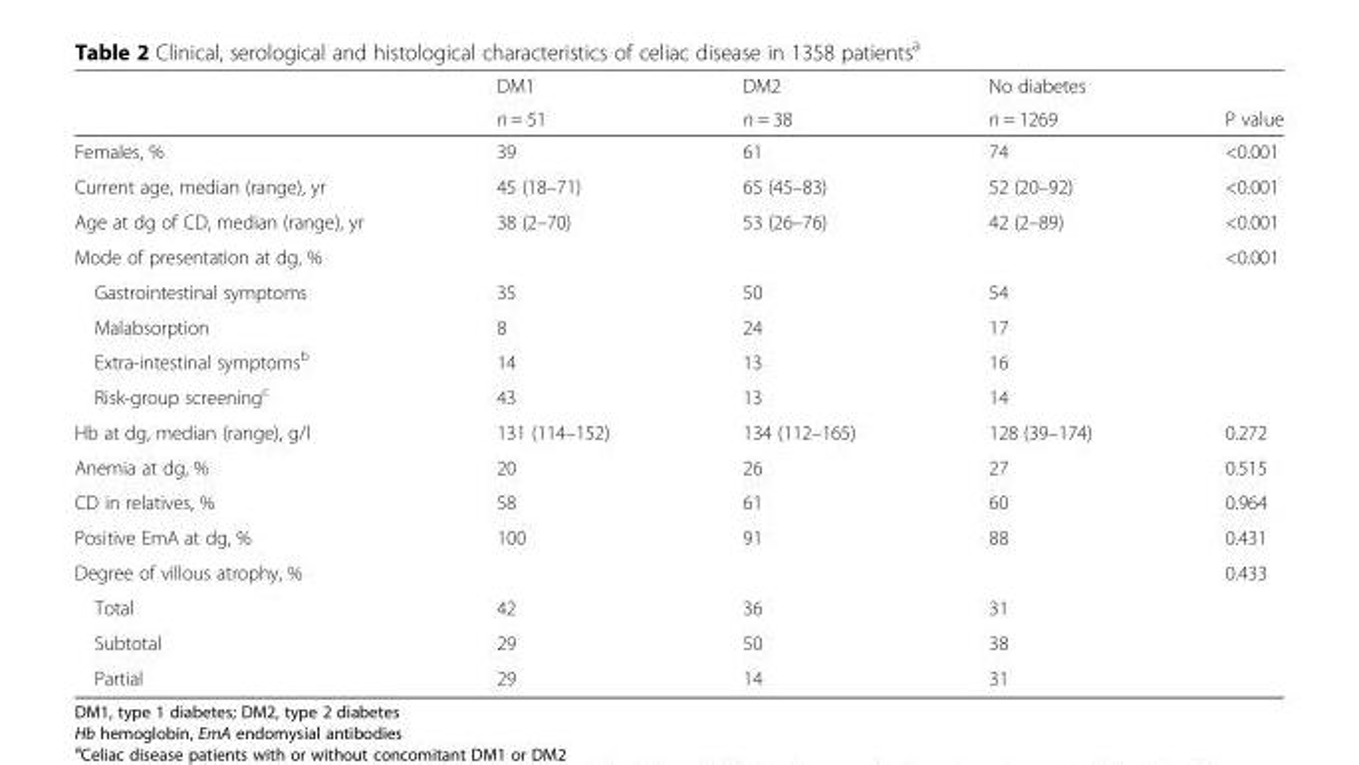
<table><thead><tr><td rowspan="2"></td><td rowspan="2">DM1 n = 51</td><td rowspan="2">DM2 n = 38</td><td rowspan="2">No diabetes n = 1269</td><td rowspan="2">P value</td></tr><tr></tr></thead><tbody><tr><td>Females, %</td><td>39</td><td>61</td><td>74</td><td>&lt;0.001</td></tr><tr><td>Current age, median (range), yr</td><td>45 (18–71)</td><td>65 (45–83)</td><td>52 (20–92)</td><td>&lt;0.001</td></tr><tr><td>Age at dg of CD, median (range), yr</td><td>38 (2–70)</td><td>53 (26–76)</td><td>42 (2–89)</td><td>&lt;0.001</td></tr><tr><td>Mode of presentation at dg, %</td><td></td><td></td><td></td><td>&lt;0.001</td></tr><tr><td>Gastrointestinal symptoms</td><td>35</td><td>50</td><td>54</td><td></td></tr><tr><td>Malabsorption</td><td>8</td><td>24</td><td>17</td><td></td></tr><tr><td>Extra-intestinal symptoms<sup>b</sup></td><td>14</td><td>13</td><td>16</td><td></td></tr><tr><td>Risk-group screening<sup>c</sup></td><td>43</td><td>13</td><td>14</td><td></td></tr><tr><td>Hb at dg, median (range), g/l</td><td>131 (114–152)</td><td>134 (112–165)</td><td>128 (39–174)</td><td>0.272</td></tr><tr><td>Anemia at dg, %</td><td>20</td><td>26</td><td>27</td><td>0.515</td></tr><tr><td>CD in relatives, %</td><td>58</td><td>61</td><td>60</td><td>0.964</td></tr><tr><td>Positive EmA at dg, %</td><td>100</td><td>91</td><td>88</td><td>0.431</td></tr><tr><td>Degree of villous atrophy, %</td><td></td><td></td><td></td><td>0.433</td></tr><tr><td>Total</td><td>42</td><td>36</td><td>31</td><td></td></tr><tr><td>Subtotal</td><td>29</td><td>50</td><td>38</td><td></td></tr><tr><td>Partial</td><td>29</td><td>14</td><td>31</td><td></td></tr></tbody></table>